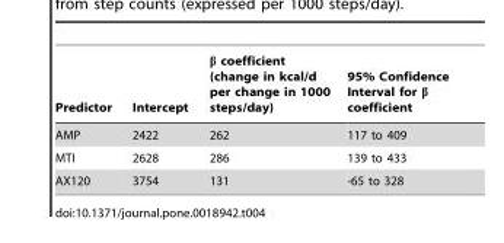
<table><thead><tr><td>Predictor</td><td>Intercept</td><td>β coefficient (change in kcal/d per change in 1000 steps/day)</td><td>95% Confidence Interval for β coefficient</td></tr></thead><tbody><tr><td>AMP</td><td>2422</td><td>262</td><td>117 to 409</td></tr><tr><td>MTI</td><td>2628</td><td>286</td><td>139 to 433</td></tr><tr><td>AX120</td><td>3754</td><td>131</td><td>-65 to 328</td></tr></tbody></table>